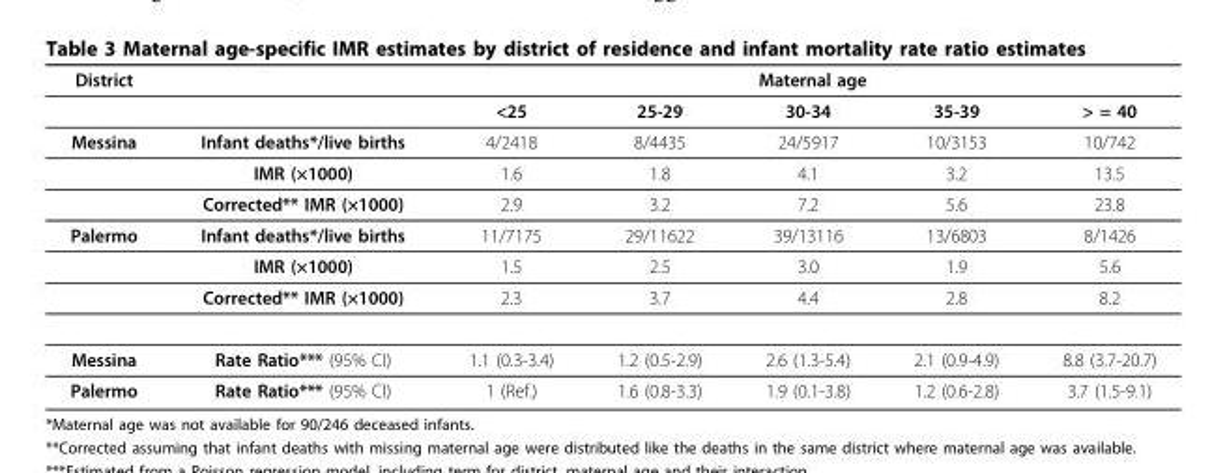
<table><thead><tr><td rowspan="2">District</td><td rowspan="2"></td><td colspan="5">Maternal age</td></tr><tr><td>&lt;25</td><td>25-29</td><td>30-34</td><td>35-39</td><td>&gt; = 40</td></tr></thead><tbody><tr><td rowspan="3">Messina</td><td>Infant deaths*/live births</td><td>4/2418</td><td>8/4435</td><td>24/5917</td><td>10/3153</td><td>10/742</td></tr><tr><td>IMR (×1000)</td><td>1.6</td><td>1.8</td><td>4.1</td><td>3.2</td><td>13.5</td></tr><tr><td>Corrected** IMR (×1000)</td><td>2.9</td><td>3.2</td><td>7.2</td><td>5.6</td><td>23.8</td></tr><tr><td rowspan="3">Palermo</td><td>Infant deaths*/live births</td><td>11/7175</td><td>29/11622</td><td>39/13116</td><td>13/6803</td><td>8/1426</td></tr><tr><td>IMR (×1000)</td><td>1.5</td><td>2.5</td><td>3.0</td><td>1.9</td><td>5.6</td></tr><tr><td>Corrected** IMR (×1000)</td><td>2.3</td><td>3.7</td><td>4.4</td><td>2.8</td><td>8.2</td></tr><tr><td>Messina</td><td>Rate Ratio*** (95% CI)</td><td>1.1 (0.3-3.4)</td><td>1.2 (0.5-2.9)</td><td>2.6 (1.3-5.4)</td><td>2.1 (0.9-4.9)</td><td>8.8 (3.7-20.7)</td></tr><tr><td>Palermo</td><td>Rate Ratio*** (95% CI)</td><td>1 (Ref.)</td><td>1.6 (0.8-3.3)</td><td>1.9 (0.1-3.8)</td><td>1.2 (0.6-2.8)</td><td>3.7 (1.5-9.1)</td></tr></tbody></table>